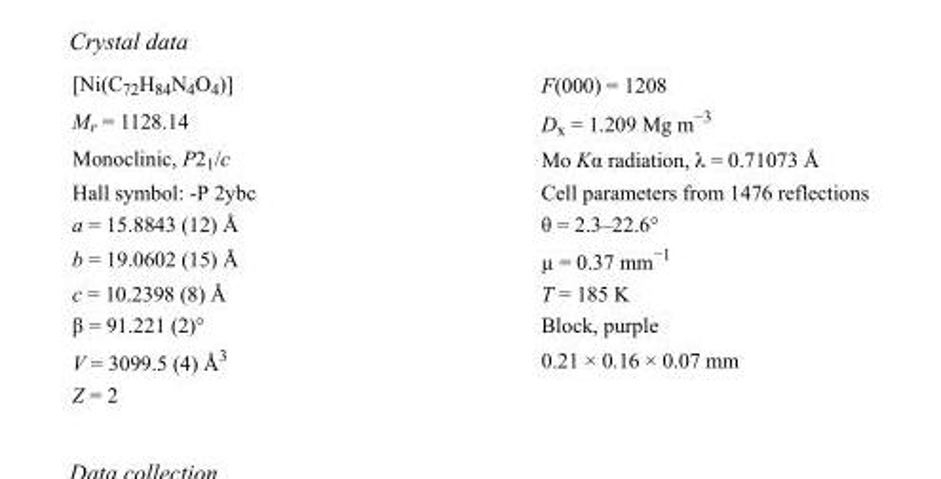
<table><tbody><tr><td>[Ni(C<sub>72</sub>H<sub>84</sub>N<sub>4</sub>O<sub>4</sub>)]</td><td>F(000) = 1208</td></tr><tr><td>M<sub>r</sub> = 1128.14</td><td>D<sub>x</sub> = 1.209 Mg m<sup>−3</sup></td></tr><tr><td>Monoclinic, P2<sub>1</sub>/c</td><td>Mo Kα radiation, λ = 0.71073 Å</td></tr><tr><td>Hall symbol: -P 2ybc</td><td>Cell parameters from 1476 reflections</td></tr><tr><td>a = 15.8843 (12) Å</td><td>θ = 2.3–22.6°</td></tr><tr><td>b = 19.0602 (15) Å</td><td>µ = 0.37 mm<sup>−1</sup></td></tr><tr><td>c = 10.2398 (8) Å</td><td>T = 185 K</td></tr><tr><td>β = 91.221 (2)°</td><td>Block, purple</td></tr><tr><td>V = 3099.5 (4) Å<sup>3</sup></td><td>0.21 × 0.16 × 0.07 mm</td></tr><tr><td>Z = 2</td><td></td></tr></tbody></table>